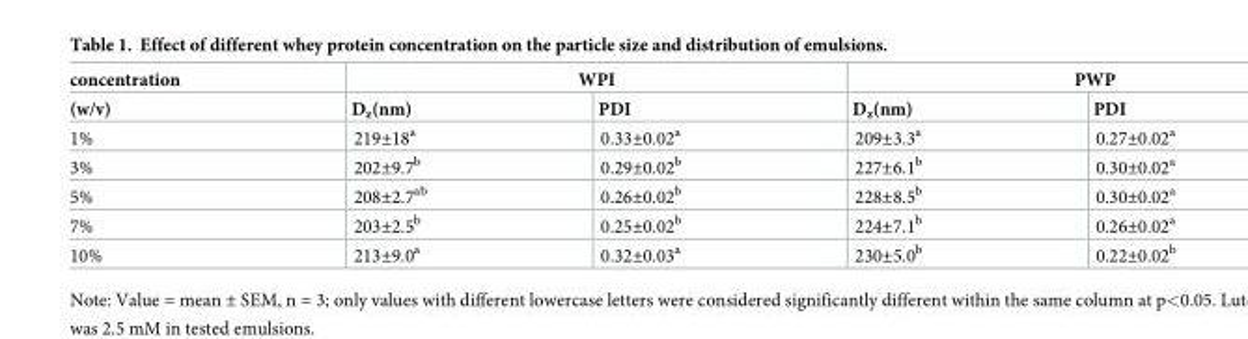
<table><thead><tr><td rowspan="2">concentration (w/v)</td><td colspan="2">WPI</td><td colspan="2">PWP</td></tr><tr><td>D<sub>z</sub>(nm)</td><td>PDI</td><td>D<sub>z</sub>(nm)</td><td>PDI</td></tr></thead><tbody><tr><td>1%</td><td>219±18<sup>a</sup></td><td>0.33±0.02<sup>a</sup></td><td>209±3.3<sup>a</sup></td><td>0.27±0.02<sup>a</sup></td></tr><tr><td>3%</td><td>202±9.7<sup>b</sup></td><td>0.29±0.02<sup>b</sup></td><td>227±6.1<sup>b</sup></td><td>0.30±0.02<sup>a</sup></td></tr><tr><td>5%</td><td>208±2.7<sup>ab</sup></td><td>0.26±0.02<sup>b</sup></td><td>228±8.5<sup>b</sup></td><td>0.30±0.02<sup>a</sup></td></tr><tr><td>7%</td><td>203±2.5<sup>b</sup></td><td>0.25±0.02<sup>b</sup></td><td>224±7.1<sup>b</sup></td><td>0.26±0.02<sup>a</sup></td></tr><tr><td>10%</td><td>213±9.0<sup>a</sup></td><td>0.32±0.03<sup>a</sup></td><td>230±5.0<sup>b</sup></td><td>0.22±0.02<sup>b</sup></td></tr></tbody></table>